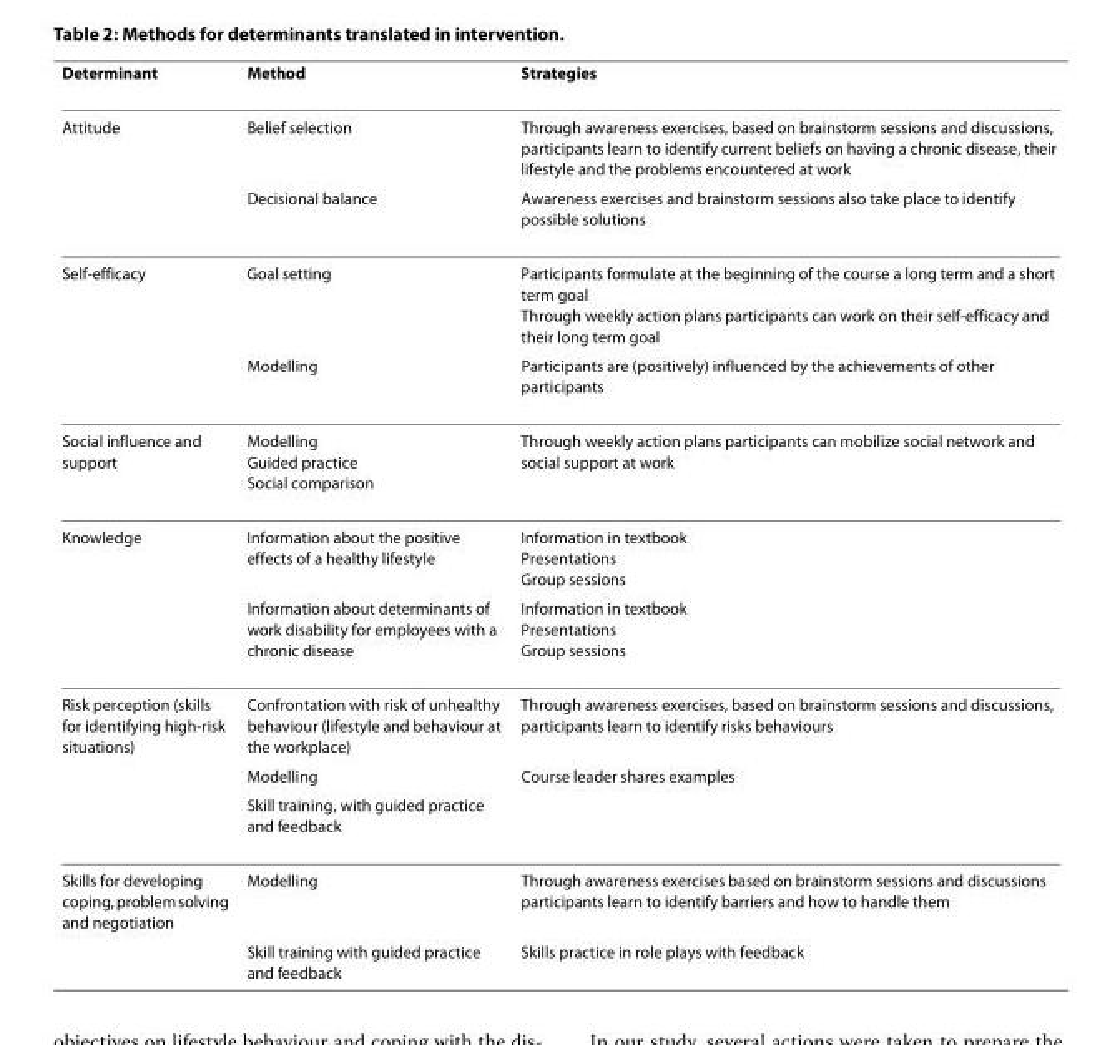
<table><thead><tr><td>Determinant</td><td>Method</td><td>Strategies</td></tr></thead><tbody><tr><td rowspan="2">Attitude</td><td>Belief selection</td><td>Through awareness exercises, based on brainstorm sessions and discussions, participants learn to identify current beliefs on having a chronic disease, their lifestyle and the problems encountered at work</td></tr><tr><td>Decisional balance</td><td>Awareness exercises and brainstorm sessions also take place to identify possible solutions</td></tr><tr><td rowspan="2">Self-efficacy</td><td>Goal setting</td><td>Participants formulate at the beginning of the course a long term and a short term goal Through weekly action plans participants can work on their self-efficacy and their long term goal</td></tr><tr><td>Modelling</td><td>Participants are (positively) influenced by the achievements of other participants</td></tr><tr><td>Social influence and support</td><td>Modelling Guided practice Social comparison</td><td>Through weekly action plans participants can mobilize social network and social support at work</td></tr><tr><td rowspan="2">Knowledge</td><td>Information about the positive effects of a healthy lifestyle</td><td>Information in textbook Presentations Group sessions</td></tr><tr><td>Information about determinants of work disability for employees with a chronic disease</td><td>Information in textbook Presentations Group sessions</td></tr><tr><td rowspan="3">Risk perception (skills for identifying high-risk situations)</td><td>Confrontation with risk of unhealthy behaviour (lifestyle and behaviour at the workplace)</td><td>Through awareness exercises, based on brainstorm sessions and discussions, participants learn to identify risks behaviours</td></tr><tr><td>Modelling</td><td>Course leader shares examples</td></tr><tr><td>Skill training, with guided practice and feedback</td><td></td></tr><tr><td rowspan="2">Skills for developing coping, problem solving and negotiation</td><td>Modelling</td><td>Through awareness exercises based on brainstorm sessions and discussions participants learn to identify barriers and how to handle them</td></tr><tr><td>Skill training with guided practice and feedback</td><td>Skills practice in role plays with feedback</td></tr></tbody></table>